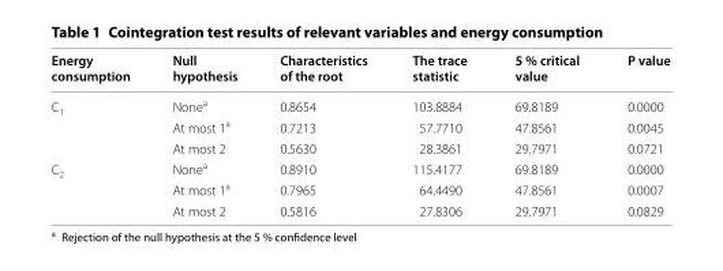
<table><thead><tr><td>Energy consumption</td><td>Null hypothesis</td><td>Characteristics of the root</td><td>The trace statistic</td><td>5 % critical value</td><td>P value</td></tr></thead><tbody><tr><td rowspan="3">C<sub>1</sub></td><td>None<sup>a</sup></td><td>0.8654</td><td>103.8884</td><td>69.8189</td><td>0.0000</td></tr><tr><td>At most 1<sup>a</sup></td><td>0.7213</td><td>57.7710</td><td>47.8561</td><td>0.0045</td></tr><tr><td>At most 2</td><td>0.5630</td><td>28.3861</td><td>29.7971</td><td>0.0721</td></tr><tr><td rowspan="3">C<sub>2</sub></td><td>None<sup>a</sup></td><td>0.8910</td><td>115.4177</td><td>69.8189</td><td>0.0000</td></tr><tr><td>At most 1<sup>a</sup></td><td>0.7965</td><td>64.4490</td><td>47.8561</td><td>0.0007</td></tr><tr><td>At most 2</td><td>0.5816</td><td>27.8306</td><td>29.7971</td><td>0.0829</td></tr></tbody></table>